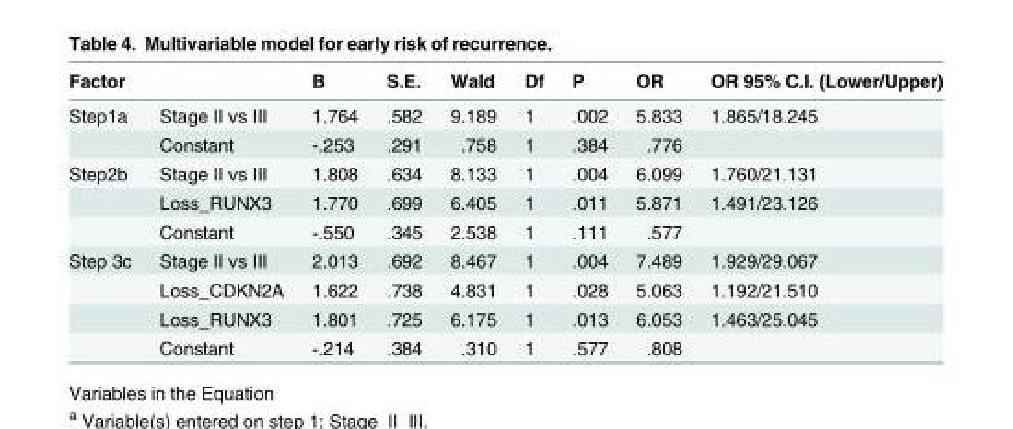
<table><thead><tr><td colspan="2">Factor</td><td rowspan="2">B 1.764</td><td rowspan="2">S.E. .582</td><td rowspan="2">Wald 9.189</td><td rowspan="2">Df 1</td><td rowspan="2">P .002</td><td rowspan="2">OR 5.833</td><td rowspan="2">OR 95% C.I. (Lower/Upper) 1.865/18.245</td></tr><tr><td>Step1<sup>a</sup></td><td>Stage II vs III</td></tr></thead><tbody><tr><td></td><td>Constant</td><td>-.253</td><td>.291</td><td>.758</td><td>1</td><td>.384</td><td>.776</td><td></td></tr><tr><td rowspan="3">Step2<sup>b</sup></td><td>Stage II vs III</td><td>1.808</td><td>.634</td><td>8.133</td><td>1</td><td>.004</td><td>6.099</td><td>1.760/21.131</td></tr><tr><td>Loss_RUNX3</td><td>1.770</td><td>.699</td><td>6.405</td><td>1</td><td>.011</td><td>5.871</td><td>1.491/23.126</td></tr><tr><td>Constant</td><td>-.550</td><td>.345</td><td>2.538</td><td>1</td><td>.111</td><td>.577</td><td></td></tr><tr><td rowspan="4">Step 3<sup>c</sup></td><td>Stage II vs III</td><td>2.013</td><td>.692</td><td>8.467</td><td>1</td><td>.004</td><td>7.489</td><td>1.929/29.067</td></tr><tr><td>Loss_CDKN2A</td><td>1.622</td><td>.738</td><td>4.831</td><td>1</td><td>.028</td><td>5.063</td><td>1.192/21.510</td></tr><tr><td>Loss_RUNX3</td><td>1.801</td><td>.725</td><td>6.175</td><td>1</td><td>.013</td><td>6.053</td><td>1.463/25.045</td></tr><tr><td>Constant</td><td>-.214</td><td>.384</td><td>.310</td><td>1</td><td>.577</td><td>.808</td><td></td></tr></tbody></table>